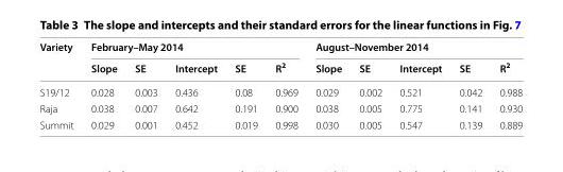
<table><thead><tr><td rowspan="2">Variety</td><td colspan="5">February–May 2014</td><td colspan="5">August–November 2014</td></tr><tr><td>Slope</td><td>SE</td><td>Intercept</td><td>SE</td><td>R<sup>2</sup></td><td>Slope</td><td>SE</td><td>Intercept</td><td>SE</td><td>R<sup>2</sup></td></tr></thead><tbody><tr><td>S19/12</td><td>0.028</td><td>0.003</td><td>0.436</td><td>0.08</td><td>0.969</td><td>0.029</td><td>0.002</td><td>0.521</td><td>0.042</td><td>0.988</td></tr><tr><td>Raja</td><td>0.038</td><td>0.007</td><td>0.642</td><td>0.191</td><td>0.900</td><td>0.038</td><td>0.005</td><td>0.775</td><td>0.141</td><td>0.930</td></tr><tr><td>Summit</td><td>0.029</td><td>0.001</td><td>0.452</td><td>0.019</td><td>0.998</td><td>0.030</td><td>0.005</td><td>0.547</td><td>0.139</td><td>0.889</td></tr></tbody></table>